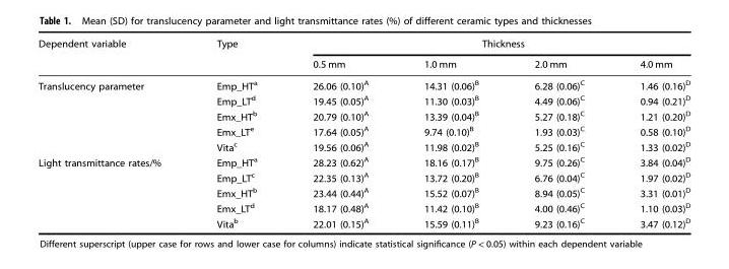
<table><thead><tr><td rowspan="2">Dependent variable</td><td rowspan="2">Type</td><td colspan="4">Thickness</td></tr><tr><td>0.5 mm</td><td>1.0 mm</td><td>2.0 mm</td><td>4.0 mm</td></tr></thead><tbody><tr><td rowspan="5">Translucency parameter</td><td>Emp_HT<sup>a</sup></td><td>26.06 (0.10)<sup>A</sup></td><td>14.31 (0.06)<sup>B</sup></td><td>6.28 (0.06)<sup>C</sup></td><td>1.46 (0.16)<sup>D</sup></td></tr><tr><td>Emp_LT<sup>d</sup></td><td>19.45 (0.05)<sup>A</sup></td><td>11.30 (0.03)<sup>B</sup></td><td>4.49 (0.06)<sup>C</sup></td><td>0.94 (0.21)<sup>D</sup></td></tr><tr><td>Emx_HT<sup>b</sup></td><td>20.79 (0.10)<sup>A</sup></td><td>13.39 (0.04)<sup>B</sup></td><td>5.27 (0.18)<sup>C</sup></td><td>1.21 (0.20)<sup>D</sup></td></tr><tr><td>Emx_LT<sup>e</sup></td><td>17.64 (0.05)<sup>A</sup></td><td>9.74 (0.10)<sup>B</sup></td><td>1.93 (0.03)<sup>C</sup></td><td>0.58 (0.10)<sup>D</sup></td></tr><tr><td>Vita<sup>c</sup></td><td>19.56 (0.06)<sup>A</sup></td><td>11.98 (0.02)<sup>B</sup></td><td>5.25 (0.16)<sup>C</sup></td><td>1.33 (0.02)<sup>D</sup></td></tr><tr><td rowspan="5">Light transmittance rates/%</td><td>Emp_HT<sup>a</sup></td><td>28.23 (0.62)<sup>A</sup></td><td>18.16 (0.17)<sup>B</sup></td><td>9.75 (0.26)<sup>C</sup></td><td>3.84 (0.04)<sup>D</sup></td></tr><tr><td>Emp_LT<sup>c</sup></td><td>22.35 (0.13)<sup>A</sup></td><td>13.72 (0.20)<sup>B</sup></td><td>6.76 (0.04)<sup>C</sup></td><td>1.97 (0.02)<sup>D</sup></td></tr><tr><td>Emx_HT<sup>b</sup></td><td>23.44 (0.44)<sup>A</sup></td><td>15.52 (0.07)<sup>B</sup></td><td>8.94 (0.05)<sup>C</sup></td><td>3.31 (0.01)<sup>D</sup></td></tr><tr><td>Emx_LT<sup>d</sup></td><td>18.17 (0.48)<sup>A</sup></td><td>11.42 (0.10)<sup>B</sup></td><td>4.00 (0.46)<sup>C</sup></td><td>1.10 (0.03)<sup>D</sup></td></tr><tr><td>Vita<sup>b</sup></td><td>22.01 (0.15)<sup>A</sup></td><td>15.59 (0.11)<sup>B</sup></td><td>9.23 (0.16)<sup>C</sup></td><td>3.47 (0.12)<sup>D</sup></td></tr></tbody></table>